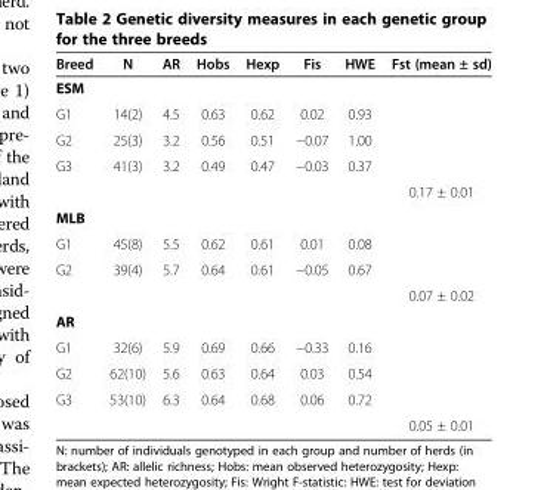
<table><thead><tr><td>Breed</td><td>N</td><td>AR</td><td>Hobs</td><td>Hexp</td><td>Fis</td><td>HWE</td><td>Fst (mean ± sd)</td></tr></thead><tbody><tr><td colspan="8">ESM</td></tr><tr><td>G1</td><td>14(2)</td><td>4.5</td><td>0.63</td><td>0.62</td><td>0.02</td><td>0.93</td><td></td></tr><tr><td>G2</td><td>25(3)</td><td>3.2</td><td>0.56</td><td>0.51</td><td>−0.07</td><td>1.00</td><td></td></tr><tr><td rowspan="2">G3</td><td>41(3)</td><td>3.2</td><td>0.49</td><td>0.47</td><td>−0.03</td><td>0.37</td><td></td></tr><tr><td></td><td></td><td></td><td></td><td></td><td></td><td>0.17 ± 0.01</td></tr><tr><td colspan="8">MLB</td></tr><tr><td>G1</td><td>45(8)</td><td>5.5</td><td>0.62</td><td>0.61</td><td>0.01</td><td>0.08</td><td></td></tr><tr><td rowspan="2">G2</td><td>39(4)</td><td>5.7</td><td>0.64</td><td>0.61</td><td>−0.05</td><td>0.67</td><td></td></tr><tr><td></td><td></td><td></td><td></td><td></td><td></td><td>0.07 ± 0.02</td></tr><tr><td colspan="8">AR</td></tr><tr><td>G1</td><td>32(6)</td><td>5.9</td><td>0.69</td><td>0.66</td><td>−0.33</td><td>0.16</td><td></td></tr><tr><td>G2</td><td>62(10)</td><td>5.6</td><td>0.63</td><td>0.64</td><td>0.03</td><td>0.54</td><td></td></tr><tr><td rowspan="2">G3</td><td>53(10)</td><td>6.3</td><td>0.64</td><td>0.68</td><td>0.06</td><td>0.72</td><td></td></tr><tr><td></td><td></td><td></td><td></td><td></td><td></td><td>0.05 ± 0.01</td></tr></tbody></table>